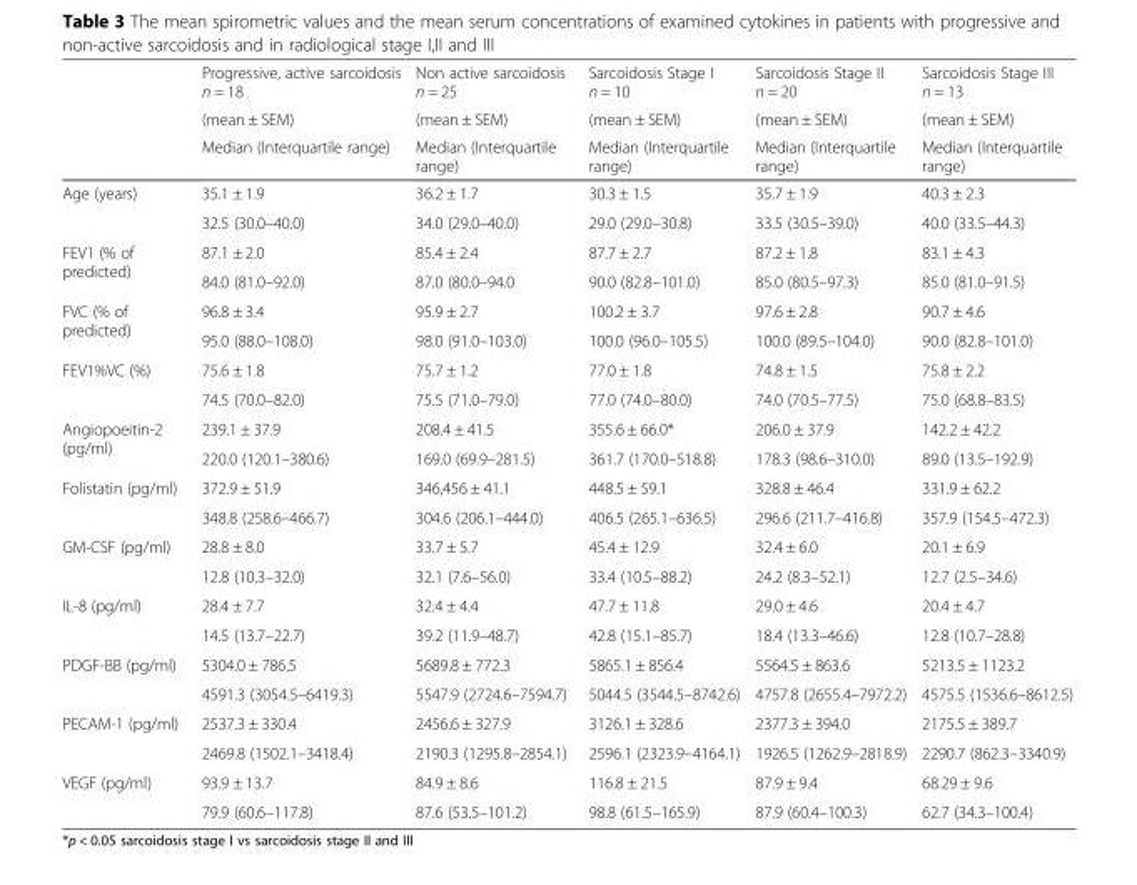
<table><thead><tr><td rowspan="3"></td><td rowspan="3">Progressive, active sarcoidosis n = 18 (mean ± SEM) Median (Interquartile range)</td><td rowspan="3">Non active sarcoidosis n = 25 (mean ± SEM) Median (Interquartile range)</td><td rowspan="3">Sarcoidosis Stage I n = 10 (mean ± SEM) Median (Interquartile range)</td><td rowspan="3">Sarcoidosis Stage II n = 20 (mean ± SEM) Median (Interquartile range)</td><td rowspan="3">Sarcoidosis Stage III n = 13 (mean ± SEM) Median (Interquartile range)</td></tr><tr></tr><tr></tr></thead><tbody><tr><td rowspan="2">Age (years)</td><td>35.1 ± 1.9</td><td>36.2 ± 1.7</td><td>30.3 ± 1.5</td><td>35.7 ± 1.9</td><td>40.3 ± 2.3</td></tr><tr><td>32.5 (30.0–40.0)</td><td>34.0 (29.0–40.0)</td><td>29.0 (29.0–30.8)</td><td>33.5 (30.5–39.0)</td><td>40.0 (33.5–44.3)</td></tr><tr><td rowspan="2">FEV1 (% of predicted)</td><td>87.1 ± 2.0</td><td>85.4 ± 2.4</td><td>87.7 ± 2.7</td><td>87.2 ± 1.8</td><td>83.1 ± 4.3</td></tr><tr><td>84.0 (81.0–92.0)</td><td>87.0 (80.0–94.0</td><td>90.0 (82.8–101.0)</td><td>85.0 (80.5–97.3)</td><td>85.0 (81.0–91.5)</td></tr><tr><td rowspan="2">FVC (% of predicted)</td><td>96.8 ± 3.4</td><td>95.9 ± 2.7</td><td>100.2 ± 3.7</td><td>97.6 ± 2.8</td><td>90.7 ± 4.6</td></tr><tr><td>95.0 (88.0–108.0)</td><td>98.0 (91.0–103.0)</td><td>100.0 (96.0–105.5)</td><td>100.0 (89.5–104.0)</td><td>90.0 (82.8–101.0)</td></tr><tr><td rowspan="2">FEV1%VC (%)</td><td>75.6 ± 1.8</td><td>75.7 ± 1.2</td><td>77.0 ± 1.8</td><td>74.8 ± 1.5</td><td>75.8 ± 2.2</td></tr><tr><td>74.5 (70.0–82.0)</td><td>75.5 (71.0–79.0)</td><td>77.0 (74.0–80.0)</td><td>74.0 (70.5–77.5)</td><td>75.0 (68.8–83.5)</td></tr><tr><td rowspan="2">Angiopoeitin-2 (pg/ml)</td><td>239.1 ± 37.9</td><td>208.4 ± 41.5</td><td>355.6 ± 66.0*</td><td>206.0 ± 37.9</td><td>142.2 ± 42.2</td></tr><tr><td>220.0 (120.1–380.6)</td><td>169.0 (69.9–281.5)</td><td>361.7 (170.0–518.8)</td><td>178.3 (98.6–310.0)</td><td>89.0 (13.5–192.9)</td></tr><tr><td rowspan="2">Folistatin (pg/ml)</td><td>372.9 ± 51.9</td><td>346,456 ± 41.1</td><td>448.5 ± 59.1</td><td>328.8 ± 46.4</td><td>331.9 ± 62.2</td></tr><tr><td>348.8 (258.6–466.7)</td><td>304.6 (206.1–444.0)</td><td>406.5 (265.1–636.5)</td><td>296.6 (211.7–416.8)</td><td>357.9 (154.5–472.3)</td></tr><tr><td rowspan="2">GM-CSF (pg/ml)</td><td>28.8 ± 8.0</td><td>33.7 ± 5.7</td><td>45.4 ± 12.9</td><td>32.4 ± 6.0</td><td>20.1 ± 6.9</td></tr><tr><td>12.8 (10.3–32.0)</td><td>32.1 (7.6–56.0)</td><td>33.4 (10.5–88.2)</td><td>24.2 (8.3–52.1)</td><td>12.7 (2.5–34.6)</td></tr><tr><td rowspan="2">IL-8 (pg/ml)</td><td>28.4 ± 7.7</td><td>32.4 ± 4.4</td><td>47.7 ± 11.8</td><td>29.0 ± 4.6</td><td>20.4 ± 4.7</td></tr><tr><td>14.5 (13.7–22.7)</td><td>39.2 (11.9–48.7)</td><td>42.8 (15.1–85.7)</td><td>18.4 (13.3–46.6)</td><td>12.8 (10.7–28.8)</td></tr><tr><td rowspan="2">PDGF-BB (pg/ml)</td><td>5304.0 ± 786.5</td><td>5689.8 ± 772.3</td><td>5865.1 ± 856.4</td><td>5564.5 ± 863.6</td><td>5213.5 ± 1123.2</td></tr><tr><td>4591.3 (3054.5–6419.3)</td><td>5547.9 (2724.6–7594.7)</td><td>5044.5 (3544.5–8742.6)</td><td>4757.8 (2655.4–7972.2)</td><td>4575.5 (1536.6–8612.5)</td></tr><tr><td rowspan="2">PECAM-1 (pg/ml)</td><td>2537.3 ± 330.4</td><td>2456.6 ± 327.9</td><td>3126.1 ± 328.6</td><td>2377.3 ± 394.0</td><td>2175.5 ± 389.7</td></tr><tr><td>2469.8 (1502.1–3418.4)</td><td>2190.3 (1295.8–2854.1)</td><td>2596.1 (2323.9–4164.1)</td><td>1926.5 (1262.9–2818.9)</td><td>2290.7 (862.3–3340.9)</td></tr><tr><td rowspan="2">VEGF (pg/ml)</td><td>93.9 ± 13.7</td><td>84.9 ± 8.6</td><td>116.8 ± 21.5</td><td>87.9 ± 9.4</td><td>68.29 ± 9.6</td></tr><tr><td>79.9 (60.6–117.8)</td><td>87.6 (53.5–101.2)</td><td>98.8 (61.5–165.9)</td><td>87.9 (60.4–100.3)</td><td>62.7 (34.3–100.4)</td></tr></tbody></table>